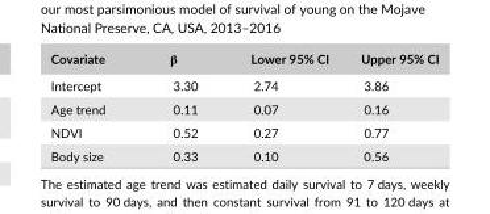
<table><thead><tr><td>Covariate</td><td>β</td><td>Lower 95% CI</td><td>Upper 95% CI</td></tr></thead><tbody><tr><td>Intercept</td><td>3.30</td><td>2.74</td><td>3.86</td></tr><tr><td>Age trend</td><td>0.11</td><td>0.07</td><td>0.16</td></tr><tr><td>NDVI</td><td>0.52</td><td>0.27</td><td>0.77</td></tr><tr><td>Body size</td><td>0.33</td><td>0.10</td><td>0.56</td></tr></tbody></table>